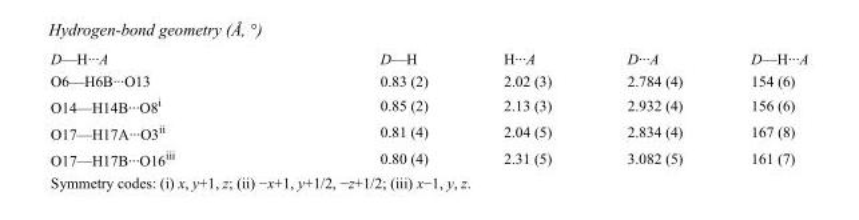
<table><tbody><tr><td>D—H···A</td><td>D—H</td><td>H···A</td><td>D···A</td><td>D—H···A</td></tr><tr><td>O6—H6B···O13</td><td>0.83 (2)</td><td>2.02 (3)</td><td>2.784 (4)</td><td>154 (6)</td></tr><tr><td>O14—H14B···O8<sup>i</sup></td><td>0.85 (2)</td><td>2.13 (3)</td><td>2.932 (4)</td><td>156 (6)</td></tr><tr><td>O17—H17A···O3<sup>ii</sup></td><td>0.81 (4)</td><td>2.04 (5)</td><td>2.834 (4)</td><td>167 (8)</td></tr><tr><td>O17—H17B···O16<sup>iii</sup></td><td>0.80 (4)</td><td>2.31 (5)</td><td>3.082 (5)</td><td>161 (7)</td></tr></tbody></table>